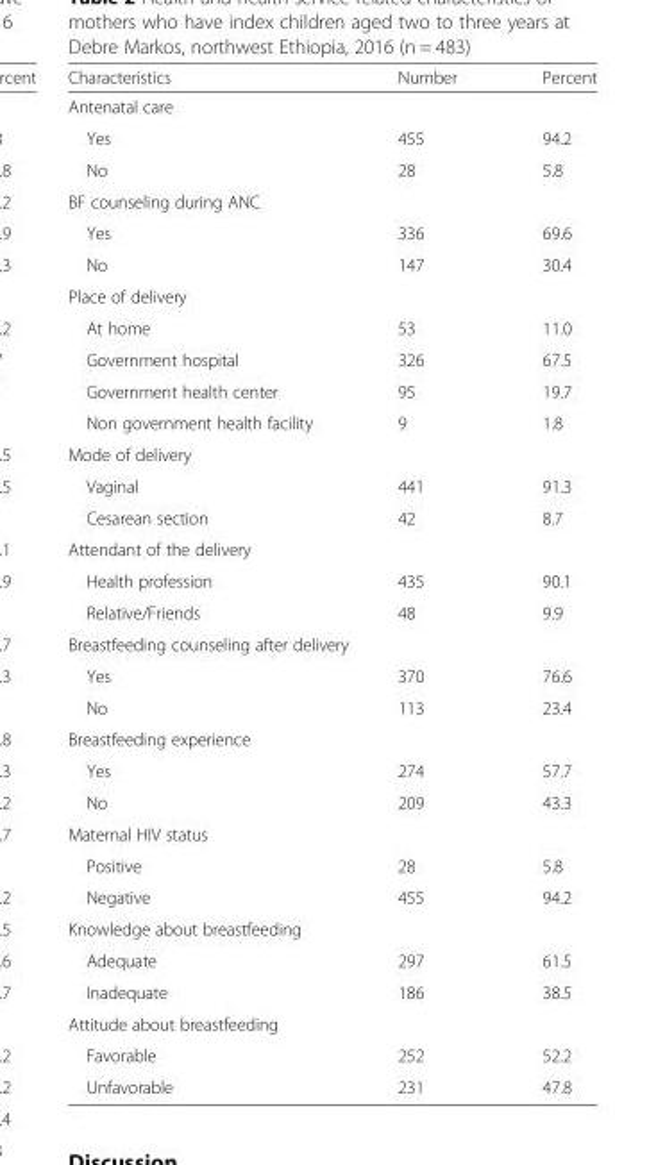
<table><thead><tr><td>Characteristics</td><td>Number</td><td>Percent</td></tr></thead><tbody><tr><td colspan="3">Antenatal care</td></tr><tr><td>Yes</td><td>455</td><td>94.2</td></tr><tr><td>No</td><td>28</td><td>5.8</td></tr><tr><td colspan="3">BF counseling during ANC</td></tr><tr><td>Yes</td><td>336</td><td>69.6</td></tr><tr><td>No</td><td>147</td><td>30.4</td></tr><tr><td colspan="3">Place of delivery</td></tr><tr><td>At home</td><td>53</td><td>11.0</td></tr><tr><td>Government hospital</td><td>326</td><td>67.5</td></tr><tr><td>Government health center</td><td>95</td><td>19.7</td></tr><tr><td>Non government health facility</td><td>9</td><td>1.8</td></tr><tr><td colspan="3">Mode of delivery</td></tr><tr><td>Vaginal</td><td>441</td><td>91.3</td></tr><tr><td>Cesarean section</td><td>42</td><td>8.7</td></tr><tr><td colspan="3">Attendant of the delivery</td></tr><tr><td>Health profession</td><td>435</td><td>90.1</td></tr><tr><td>Relative/Friends</td><td>48</td><td>9.9</td></tr><tr><td colspan="3">Breastfeeding counseling after delivery</td></tr><tr><td>Yes</td><td>370</td><td>76.6</td></tr><tr><td>No</td><td>113</td><td>23.4</td></tr><tr><td colspan="3">Breastfeeding experience</td></tr><tr><td>Yes</td><td>274</td><td>57.7</td></tr><tr><td>No</td><td>209</td><td>43.3</td></tr><tr><td colspan="3">Maternal HIV status</td></tr><tr><td>Positive</td><td>28</td><td>5.8</td></tr><tr><td>Negative</td><td>455</td><td>94.2</td></tr><tr><td colspan="3">Knowledge about breastfeeding</td></tr><tr><td>Adequate</td><td>297</td><td>61.5</td></tr><tr><td>Inadequate</td><td>186</td><td>38.5</td></tr><tr><td colspan="3">Attitude about breastfeeding</td></tr><tr><td>Favorable</td><td>252</td><td>52.2</td></tr><tr><td>Unfavorable</td><td>231</td><td>47.8</td></tr></tbody></table>